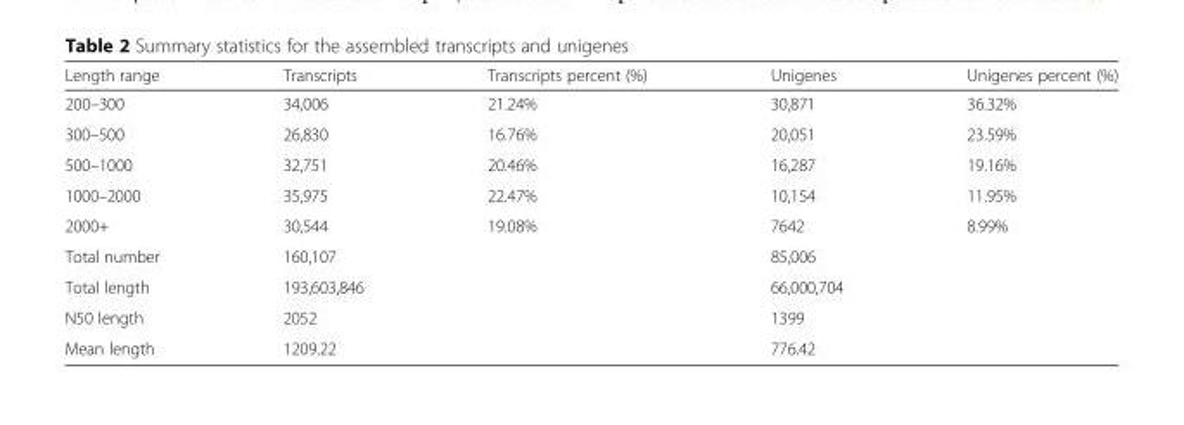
<table><thead><tr><td>Length range</td><td>Transcripts</td><td>Transcripts percent (%)</td><td>Unigenes</td><td>Unigenes percent (%)</td></tr></thead><tbody><tr><td>200–300</td><td>34,006</td><td>21.24%</td><td>30,871</td><td>36.32%</td></tr><tr><td>300–500</td><td>26,830</td><td>16.76%</td><td>20,051</td><td>23.59%</td></tr><tr><td>500–1000</td><td>32,751</td><td>20.46%</td><td>16,287</td><td>19.16%</td></tr><tr><td>1000–2000</td><td>35,975</td><td>22.47%</td><td>10,154</td><td>11.95%</td></tr><tr><td>2000+</td><td>30,544</td><td>19.08%</td><td>7642</td><td>8.99%</td></tr><tr><td>Total number</td><td>160,107</td><td rowspan="4"></td><td>85,006</td><td rowspan="4"></td></tr><tr><td>Total length</td><td>193,603,846</td><td>66,000,704</td></tr><tr><td>N50 length</td><td>2052</td><td>1399</td></tr><tr><td>Mean length</td><td>1209.22</td><td>776.42</td></tr></tbody></table>